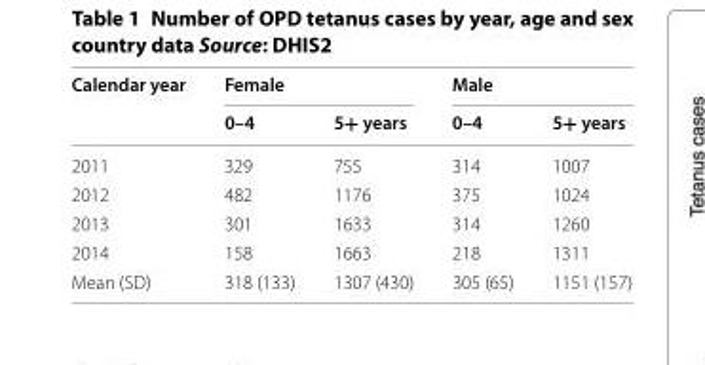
<table><thead><tr><td rowspan="2">Calendar year</td><td colspan="2">Female</td><td colspan="2">Male</td></tr><tr><td>0–4</td><td>5+ years</td><td>0–4</td><td>5+ years</td></tr></thead><tbody><tr><td>2011</td><td>329</td><td>755</td><td>314</td><td>1007</td></tr><tr><td>2012</td><td>482</td><td>1176</td><td>375</td><td>1024</td></tr><tr><td>2013</td><td>301</td><td>1633</td><td>314</td><td>1260</td></tr><tr><td>2014</td><td>158</td><td>1663</td><td>218</td><td>1311</td></tr><tr><td>Mean (SD)</td><td>318 (133)</td><td>1307 (430)</td><td>305 (65)</td><td>1151 (157)</td></tr></tbody></table>